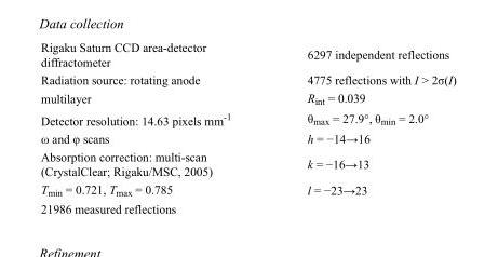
<table><tbody><tr><td>Rigaku Saturn CCD area-detector diffractometer</td><td>6297 independent reflections</td></tr><tr><td>Radiation source: rotating anode</td><td>4775 reflections with I &gt; 2σ(I)</td></tr><tr><td>multilayer</td><td>R<sub>int</sub> = 0.039</td></tr><tr><td>Detector resolution: 14.63 pixels mm<sup>-1</sup></td><td>θ<sub>max</sub> = 27.9°, θ<sub>min</sub> = 2.0°</td></tr><tr><td>ω and φ scans</td><td>h = −14→16</td></tr><tr><td>Absorption correction: multi-scan (CrystalClear; Rigaku/MSC, 2005)</td><td>k = −16→13</td></tr><tr><td>T<sub>min</sub> = 0.721, T<sub>max</sub> = 0.785</td><td>l = −23→23</td></tr><tr><td>21986 measured reflections</td><td></td></tr></tbody></table>